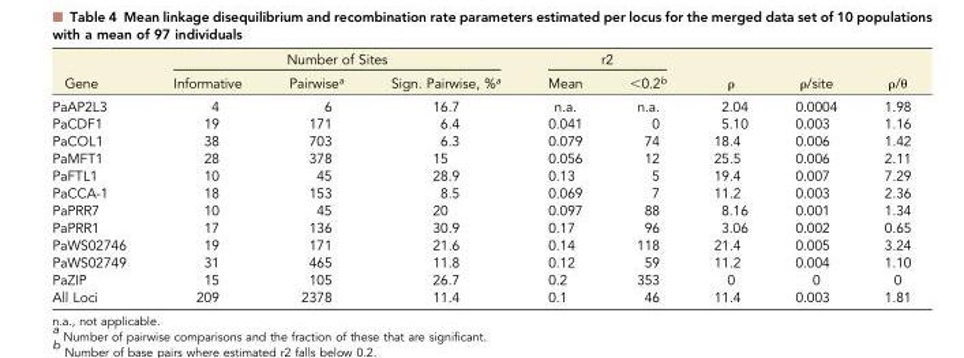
<table><thead><tr><td rowspan="2">Gene</td><td colspan="3">Number of Sites</td><td colspan="2">r2</td><td rowspan="2">ρ</td><td rowspan="2">ρ/site</td><td rowspan="2">ρ/θ</td></tr><tr><td>Informative</td><td>Pairwise<sup>a</sup></td><td>Sign. Pairwise, %<sup>a</sup></td><td>Mean</td><td>&lt;0.2<sup>b</sup></td></tr></thead><tbody><tr><td>PaAP2L3</td><td>4</td><td>6</td><td>16.7</td><td>n.a.</td><td>n.a.</td><td>2.04</td><td>0.0004</td><td>1.98</td></tr><tr><td>PaCDF1</td><td>19</td><td>171</td><td>6.4</td><td>0.041</td><td>0</td><td>5.10</td><td>0.003</td><td>1.16</td></tr><tr><td>PaCOL1</td><td>38</td><td>703</td><td>6.3</td><td>0.079</td><td>74</td><td>18.4</td><td>0.006</td><td>1.42</td></tr><tr><td>PaMFT1</td><td>28</td><td>378</td><td>15</td><td>0.056</td><td>12</td><td>25.5</td><td>0.006</td><td>2.11</td></tr><tr><td>PaFTL1</td><td>10</td><td>45</td><td>28.9</td><td>0.13</td><td>5</td><td>19.4</td><td>0.007</td><td>7.29</td></tr><tr><td>PaCCA-1</td><td>18</td><td>153</td><td>8.5</td><td>0.069</td><td>7</td><td>11.2</td><td>0.003</td><td>2.36</td></tr><tr><td>PaPRR7</td><td>10</td><td>45</td><td>20</td><td>0.097</td><td>88</td><td>8.16</td><td>0.001</td><td>1.34</td></tr><tr><td>PaPRR1</td><td>17</td><td>136</td><td>30.9</td><td>0.17</td><td>96</td><td>3.06</td><td>0.002</td><td>0.65</td></tr><tr><td>PaWS02746</td><td>19</td><td>171</td><td>21.6</td><td>0.14</td><td>118</td><td>21.4</td><td>0.005</td><td>3.24</td></tr><tr><td>PaWS02749</td><td>31</td><td>465</td><td>11.8</td><td>0.12</td><td>59</td><td>11.2</td><td>0.004</td><td>1.10</td></tr><tr><td>PaZIP</td><td>15</td><td>105</td><td>26.7</td><td>0.2</td><td>353</td><td>0</td><td>0</td><td>0</td></tr><tr><td>All Loci</td><td>209</td><td>2378</td><td>11.4</td><td>0.1</td><td>46</td><td>11.4</td><td>0.003</td><td>1.81</td></tr></tbody></table>